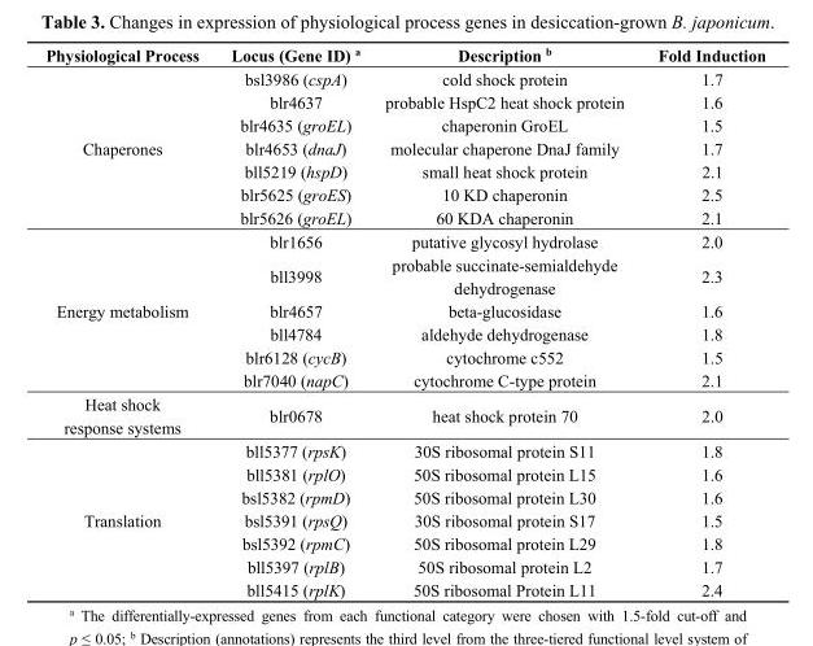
<table><thead><tr><td>Physiological Process</td><td>Locus (Gene ID) <sup>a</sup></td><td>Description <sup>b</sup></td><td>Fold Induction</td></tr></thead><tbody><tr><td rowspan="7">Chaperones</td><td>bsl3986 (cspA)</td><td>cold shock protein</td><td>1.7</td></tr><tr><td>blr4637</td><td>probable HspC2 heat shock protein</td><td>1.6</td></tr><tr><td>blr4635 (groEL)</td><td>chaperonin GroEL</td><td>1.5</td></tr><tr><td>blr4653 (dnaJ)</td><td>molecular chaperone DnaJ family</td><td>1.7</td></tr><tr><td>bll5219 (hspD)</td><td>small heat shock protein</td><td>2.1</td></tr><tr><td>blr5625 (groES)</td><td>10 KD chaperonin</td><td>2.5</td></tr><tr><td>blr5626 (groEL)</td><td>60 KDA chaperonin</td><td>2.1</td></tr><tr><td rowspan="6">Energy metabolism</td><td>blr1656</td><td>putative glycosyl hydrolase</td><td>2.0</td></tr><tr><td>bll3998</td><td>probable succinate-semialdehyde dehydrogenase</td><td>2.3</td></tr><tr><td>blr4657</td><td>beta-glucosidase</td><td>1.6</td></tr><tr><td>bll4784</td><td>aldehyde dehydrogenase</td><td>1.8</td></tr><tr><td>blr6128 (cycB)</td><td>cytochrome c552</td><td>1.5</td></tr><tr><td>blr7040 (napC)</td><td>cytochrome C-type protein</td><td>2.1</td></tr><tr><td>Heat shock response systems</td><td>blr0678</td><td>heat shock protein 70</td><td>2.0</td></tr><tr><td rowspan="7">Translation</td><td>bll5377 (rpsK)</td><td>30S ribosomal protein S11</td><td>1.8</td></tr><tr><td>bll5381 (rplO)</td><td>50S ribosomal protein L15</td><td>1.6</td></tr><tr><td>bsl5382 (rpmD)</td><td>50S ribosomal protein L30</td><td>1.6</td></tr><tr><td>bsl5391 (rpsQ)</td><td>30S ribosomal protein S17</td><td>1.5</td></tr><tr><td>bsl5392 (rpmC)</td><td>50S ribosomal protein L29</td><td>1.8</td></tr><tr><td>bll5397 (rplB)</td><td>50S ribosomal protein L2</td><td>1.7</td></tr><tr><td>bll5415 (rplK)</td><td>50S ribosomal Protein L11</td><td>2.4</td></tr></tbody></table>